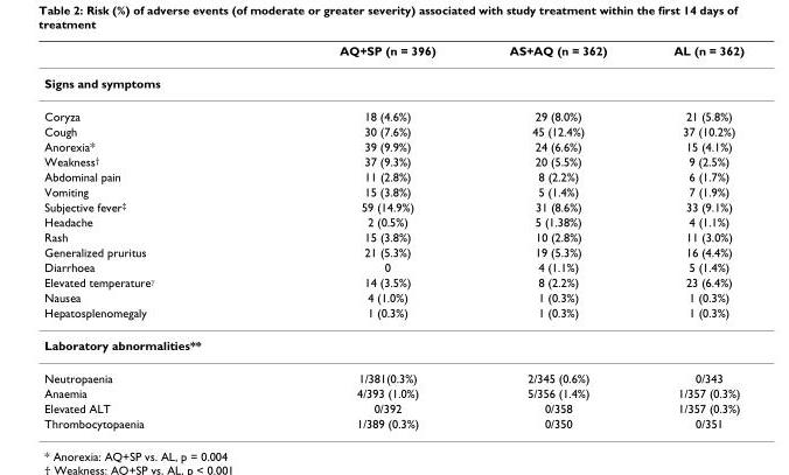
<table><thead><tr><td></td><td>AQ+SP (n = 396)</td><td>AS+AQ (n = 362)</td><td>AL (n = 362)</td></tr></thead><tbody><tr><td colspan="4">Signs and symptoms</td></tr><tr><td>Coryza</td><td>18 (4.6%)</td><td>29 (8.0%)</td><td>21 (5.8%)</td></tr><tr><td>Cough</td><td>30 (7.6%)</td><td>45 (12.4%)</td><td>37 (10.2%)</td></tr><tr><td>Anorexia*</td><td>39 (9.9%)</td><td>24 (6.6%)</td><td>15 (4.1%)</td></tr><tr><td>Weakness<sup>†</sup></td><td>37 (9.3%)</td><td>20 (5.5%)</td><td>9 (2.5%)</td></tr><tr><td>Abdominal pain</td><td>11 (2.8%)</td><td>8 (2.2%)</td><td>6 (1.7%)</td></tr><tr><td>Vomiting</td><td>15 (3.8%)</td><td>5 (1.4%)</td><td>7 (1.9%)</td></tr><tr><td>Subjective fever<sup>‡</sup></td><td>59 (14.9%)</td><td>31 (8.6%)</td><td>33 (9.1%)</td></tr><tr><td>Headache</td><td>2 (0.5%)</td><td>5 (1.38%)</td><td>4 (1.1%)</td></tr><tr><td>Rash</td><td>15 (3.8%)</td><td>10 (2.8%)</td><td>11 (3.0%)</td></tr><tr><td>Generalized pruritus</td><td>21 (5.3%)</td><td>19 (5.3%)</td><td>16 (4.4%)</td></tr><tr><td>Diarrhoea</td><td>0</td><td>4 (1.1%)</td><td>5 (1.4%)</td></tr><tr><td>Elevated temperature<sup>γ</sup></td><td>14 (3.5%)</td><td>8 (2.2%)</td><td>23 (6.4%)</td></tr><tr><td>Nausea</td><td>4 (1.0%)</td><td>1 (0.3%)</td><td>1 (0.3%)</td></tr><tr><td>Hepatosplenomegaly</td><td>1 (0.3%)</td><td>1 (0.3%)</td><td>1 (0.3%)</td></tr><tr><td colspan="4">Laboratory abnormalities**</td></tr><tr><td>Neutropaenia</td><td>1/381(0.3%)</td><td>2/345 (0.6%)</td><td>0/343</td></tr><tr><td>Anaemia</td><td>4/393 (1.0%)</td><td>5/356 (1.4%)</td><td>1/357 (0.3%)</td></tr><tr><td>Elevated ALT</td><td>0/392</td><td>0/358</td><td>1/357 (0.3%)</td></tr><tr><td>Thrombocytopaenia</td><td>1/389 (0.3%)</td><td>0/350</td><td>0/351</td></tr></tbody></table>